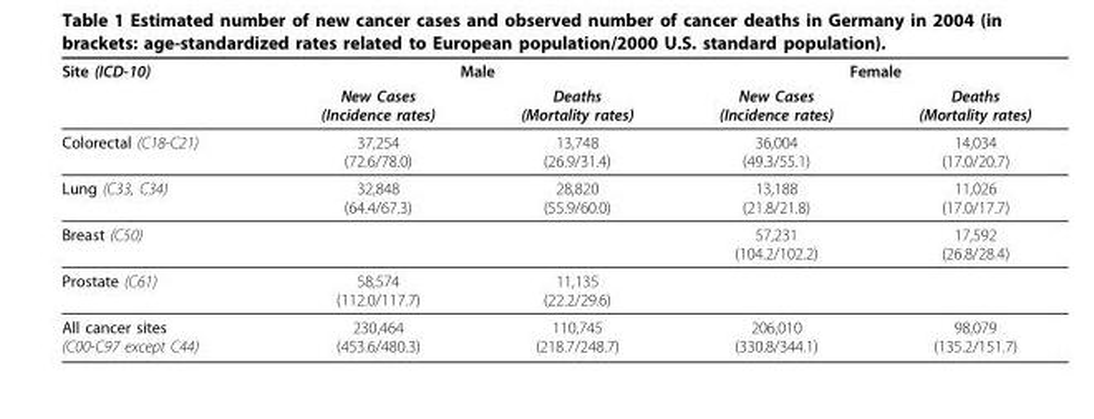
<table><thead><tr><td rowspan="2">Site (ICD-10)</td><td colspan="2">Male</td><td colspan="2">Female</td></tr><tr><td>New Cases (Incidence rates)</td><td>Deaths (Mortality rates)</td><td>New Cases (Incidence rates)</td><td>Deaths (Mortality rates)</td></tr></thead><tbody><tr><td>Colorectal (C18-C21)</td><td>37,254 (72.6/78.0)</td><td>13,748 (26.9/31.4)</td><td>36,004 (49.3/55.1)</td><td>14,034 (17.0/20.7)</td></tr><tr><td>Lung (C33, C34)</td><td>32,848 (64.4/67.3)</td><td>28,820 (55.9/60.0)</td><td>13,188 (21.8/21.8)</td><td>11,026 (17.0/17.7)</td></tr><tr><td>Breast (C50)</td><td></td><td></td><td>57,231 (104.2/102.2)</td><td>17,592 (26.8/28.4)</td></tr><tr><td>Prostate (C61)</td><td>58,574 (112.0/117.7)</td><td>11,135 (22.2/29.6)</td><td></td><td></td></tr><tr><td>All cancer sites (C00-C97 except C44)</td><td>230,464 (453.6/480.3)</td><td>110,745 (218.7/248.7)</td><td>206,010 (330.8/344.1)</td><td>98,079 (135.2/151.7)</td></tr></tbody></table>